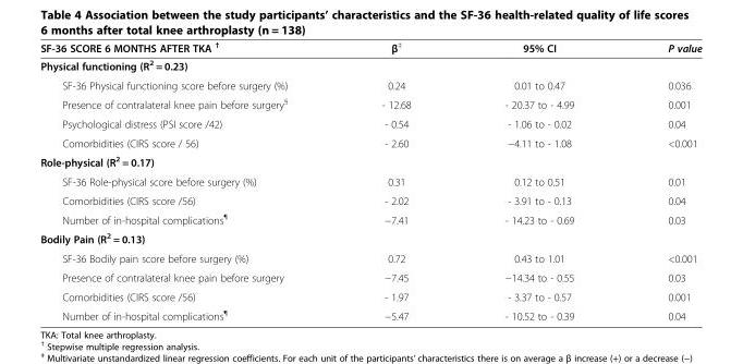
<table><thead><tr><td>SF-36 SCORE 6 MONTHS AFTER TKA <sup>†</sup></td><td>β<sup>‡</sup></td><td>95% CI</td><td>P value</td></tr></thead><tbody><tr><td colspan="4">Physical functioning (R<sup>2</sup> = 0.23)</td></tr><tr><td>SF-36 Physical functioning score before surgery (%)</td><td>0.24</td><td>0.01 to 0.47</td><td>0.036</td></tr><tr><td>Presence of contralateral knee pain before surgery<sup>§</sup></td><td>- 12.68</td><td>- 20.37 to - 4.99</td><td>0.001</td></tr><tr><td>Psychological distress (PSI score /42)</td><td>- 0.54</td><td>- 1.06 to - 0.02</td><td>0.04</td></tr><tr><td>Comorbidities (CIRS score / 56)</td><td>- 2.60</td><td>−4.11 to - 1.08</td><td>&lt;0.001</td></tr><tr><td colspan="4">Role-physical (R<sup>2</sup> = 0.17)</td></tr><tr><td>SF-36 Role-physical score before surgery (%)</td><td>0.31</td><td>0.12 to 0.51</td><td>0.01</td></tr><tr><td>Comorbidities (CIRS score /56)</td><td>- 2.02</td><td>- 3.91 to - 0.13</td><td>0.04</td></tr><tr><td>Number of in-hospital complications<sup>¶</sup></td><td>−7.41</td><td>- 14.23 to - 0.69</td><td>0.03</td></tr><tr><td colspan="4">Bodily Pain (R<sup>2</sup> = 0.13)</td></tr><tr><td>SF-36 Bodily pain score before surgery (%)</td><td>0.72</td><td>0.43 to 1.01</td><td>&lt;0.001</td></tr><tr><td>Presence of contralateral knee pain before surgery</td><td>−7.45</td><td>−14.34 to - 0.55</td><td>0.03</td></tr><tr><td>Comorbidities (CIRS score /56)</td><td>- 1.97</td><td>- 3.37 to - 0.57</td><td>0.001</td></tr><tr><td>Number of in-hospital complications<sup>¶</sup></td><td>−5.47</td><td>- 10.52 to - 0.39</td><td>0.04</td></tr></tbody></table>